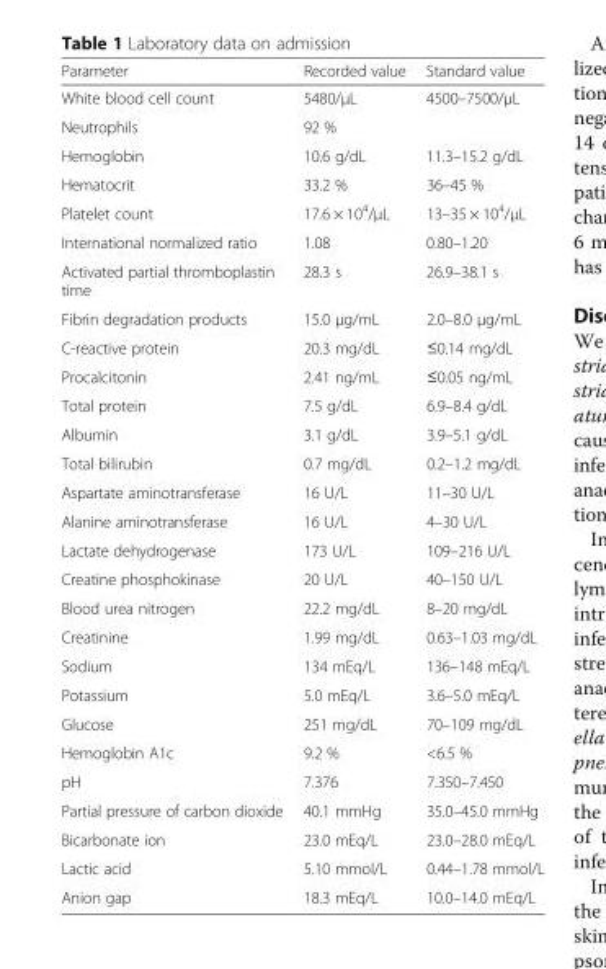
<table><thead><tr><td>Parameter</td><td>Recorded value</td><td>Standard value</td></tr></thead><tbody><tr><td>White blood cell count</td><td>5480/μL</td><td>4500–7500/μL</td></tr><tr><td>Neutrophils</td><td>92 %</td><td></td></tr><tr><td>Hemoglobin</td><td>10.6 g/dL</td><td>11.3–15.2 g/dL</td></tr><tr><td>Hematocrit</td><td>33.2 %</td><td>36–45 %</td></tr><tr><td>Platelet count</td><td>17.6 × 10<sup>4</sup>/μL</td><td>13–35 × 10<sup>4</sup>/μL</td></tr><tr><td>International normalized ratio</td><td>1.08</td><td>0.80–1.20</td></tr><tr><td>Activated partial thromboplastin time</td><td>28.3 s</td><td>26.9–38.1 s</td></tr><tr><td>Fibrin degradation products</td><td>15.0 μg/mL</td><td>2.0–8.0 μg/mL</td></tr><tr><td>C-reactive protein</td><td>20.3 mg/dL</td><td>≤0.14 mg/dL</td></tr><tr><td>Procalcitonin</td><td>2.41 ng/mL</td><td>≤0.05 ng/mL</td></tr><tr><td>Total protein</td><td>7.5 g/dL</td><td>6.9–8.4 g/dL</td></tr><tr><td>Albumin</td><td>3.1 g/dL</td><td>3.9–5.1 g/dL</td></tr><tr><td>Total bilirubin</td><td>0.7 mg/dL</td><td>0.2–1.2 mg/dL</td></tr><tr><td>Aspartate aminotransferase</td><td>16 U/L</td><td>11–30 U/L</td></tr><tr><td>Alanine aminotransferase</td><td>16 U/L</td><td>4–30 U/L</td></tr><tr><td>Lactate dehydrogenase</td><td>173 U/L</td><td>109–216 U/L</td></tr><tr><td>Creatine phosphokinase</td><td>20 U/L</td><td>40–150 U/L</td></tr><tr><td>Blood urea nitrogen</td><td>22.2 mg/dL</td><td>8–20 mg/dL</td></tr><tr><td>Creatinine</td><td>1.99 mg/dL</td><td>0.63–1.03 mg/dL</td></tr><tr><td>Sodium</td><td>134 mEq/L</td><td>136–148 mEq/L</td></tr><tr><td>Potassium</td><td>5.0 mEq/L</td><td>3.6–5.0 mEq/L</td></tr><tr><td>Glucose</td><td>251 mg/dL</td><td>70–109 mg/dL</td></tr><tr><td>Hemoglobin A1c</td><td>9.2 %</td><td>&lt;6.5 %</td></tr><tr><td>pH</td><td>7.376</td><td>7.350–7.450</td></tr><tr><td>Partial pressure of carbon dioxide</td><td>40.1 mmHg</td><td>35.0–45.0 mmHg</td></tr><tr><td>Bicarbonate ion</td><td>23.0 mEq/L</td><td>23.0–28.0 mEq/L</td></tr><tr><td>Lactic acid</td><td>5.10 mmol/L</td><td>0.44–1.78 mmol/L</td></tr><tr><td>Anion gap</td><td>18.3 mEq/L</td><td>10.0–14.0 mEq/L</td></tr></tbody></table>